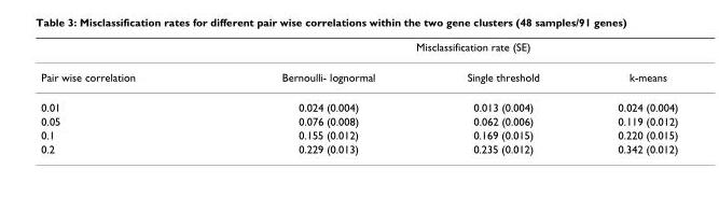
<table><thead><tr><td rowspan="2">Pair wise correlation</td><td colspan="3">Misclassification rate (SE)</td></tr><tr><td>Bernoulli- lognormal</td><td>Single threshold</td><td>k-means</td></tr></thead><tbody><tr><td>0.01</td><td>0.024 (0.004)</td><td>0.013 (0.004)</td><td>0.024 (0.004)</td></tr><tr><td>0.05</td><td>0.076 (0.008)</td><td>0.062 (0.006)</td><td>0.119 (0.012)</td></tr><tr><td>0.1</td><td>0.155 (0.012)</td><td>0.169 (0.015)</td><td>0.220 (0.015)</td></tr><tr><td>0.2</td><td>0.229 (0.013)</td><td>0.235 (0.012)</td><td>0.342 (0.012)</td></tr></tbody></table>